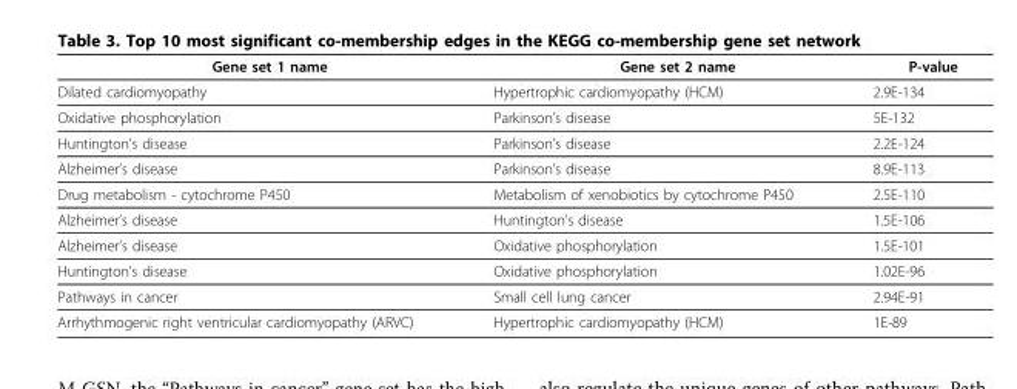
<table><thead><tr><td>Gene set 1 name</td><td>Gene set 2 name</td><td>P-value</td></tr></thead><tbody><tr><td>Dilated cardiomyopathy</td><td>Hypertrophic cardiomyopathy (HCM)</td><td>2.9E-134</td></tr><tr><td>Oxidative phosphorylation</td><td>Parkinson’s disease</td><td>5E-132</td></tr><tr><td>Huntington’s disease</td><td>Parkinson’s disease</td><td>2.2E-124</td></tr><tr><td>Alzheimer’s disease</td><td>Parkinson’s disease</td><td>8.9E-113</td></tr><tr><td>Drug metabolism - cytochrome P450</td><td>Metabolism of xenobiotics by cytochrome P450</td><td>2.5E-110</td></tr><tr><td>Alzheimer’s disease</td><td>Huntington’s disease</td><td>1.5E-106</td></tr><tr><td>Alzheimer’s disease</td><td>Oxidative phosphorylation</td><td>1.5E-101</td></tr><tr><td>Huntington’s disease</td><td>Oxidative phosphorylation</td><td>1.02E-96</td></tr><tr><td>Pathways in cancer</td><td>Small cell lung cancer</td><td>2.94E-91</td></tr><tr><td>Arrhythmogenic right ventricular cardiomyopathy (ARVC)</td><td>Hypertrophic cardiomyopathy (HCM)</td><td>1E-89</td></tr></tbody></table>